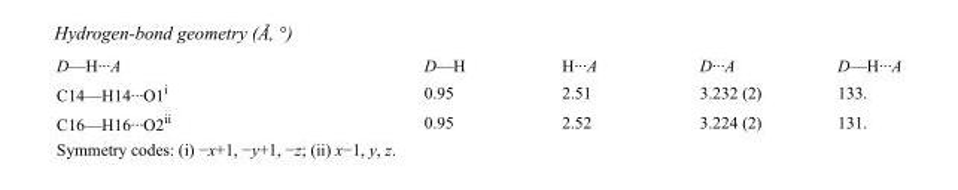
<table><tbody><tr><td>D—H···A</td><td>D—H</td><td>H···A</td><td>D···A</td><td>D—H···A</td></tr><tr><td>C14—H14···O1<sup>i</sup></td><td>0.95</td><td>2.51</td><td>3.232 (2)</td><td>133.</td></tr><tr><td>C16—H16···O2<sup>ii</sup></td><td>0.95</td><td>2.52</td><td>3.224 (2)</td><td>131.</td></tr></tbody></table>